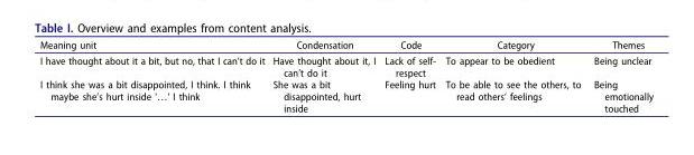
<table><thead><tr><td>Meaning unit</td><td>Condensation</td><td>Code</td><td>Category</td><td>Themes</td></tr></thead><tbody><tr><td>I have thought about it a bit, but no, that I can’t do it</td><td>Have thought about it, I can’t do it</td><td>Lack of self- respect</td><td>To appear to be obedient</td><td>Being unclear</td></tr><tr><td>I think she was a bit disappointed, I think. I think maybe she’s hurt inside &#x27;…&#x27; I think</td><td>She was a bit disappointed, hurt inside</td><td>Feeling hurt</td><td>To be able to see the others, to read others’ feelings</td><td>Being emotionally touched</td></tr></tbody></table>